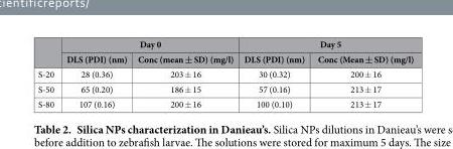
<table><thead><tr><td rowspan="2"></td><td colspan="2">Day 0</td><td colspan="2">Day 5</td></tr><tr><td>DLS (PDI) (nm)</td><td>Conc (mean ± SD) (mg/l)</td><td>DLS (PDI) (nm)</td><td>Conc (Mean ± SD) (mg/l)</td></tr></thead><tbody><tr><td>S-20</td><td>28 (0.36)</td><td>203 ± 16</td><td>30 (0.32)</td><td>200 ± 16</td></tr><tr><td>S-50</td><td>65 (0.20)</td><td>186 ± 15</td><td>57 (0.16)</td><td>213 ± 17</td></tr><tr><td>S-80</td><td>107 (0.16)</td><td>200 ± 16</td><td>100 (0.10)</td><td>213 ± 17</td></tr></tbody></table>